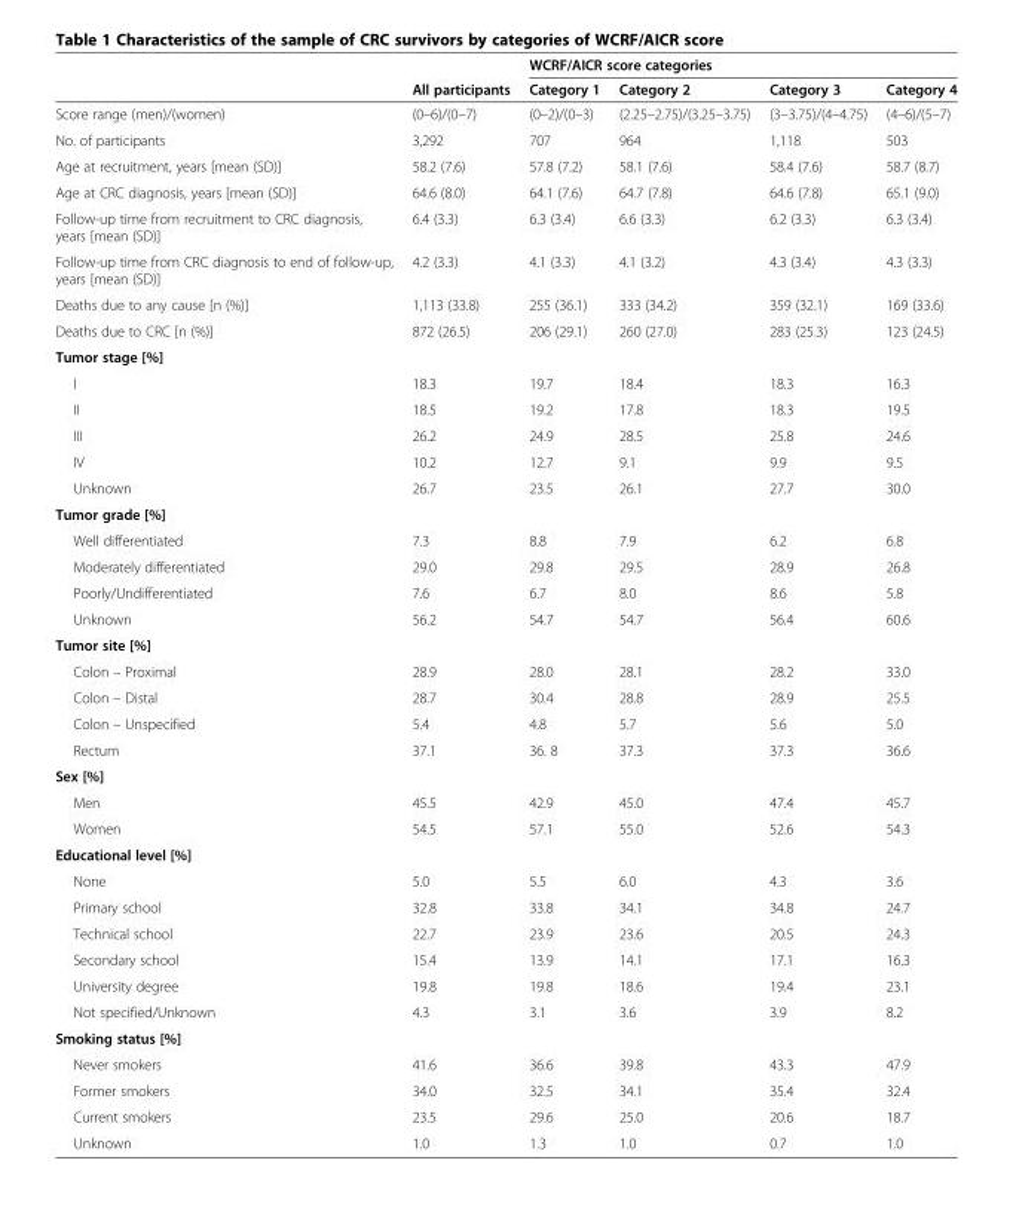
<table><thead><tr><td rowspan="2"></td><td rowspan="2">All participants</td><td colspan="4">WCRF/AICR score categories</td></tr><tr><td>Category 1</td><td>Category 2</td><td>Category 3</td><td>Category 4</td></tr></thead><tbody><tr><td>Score range (men)/(women)</td><td>(0–6)/(0–7)</td><td>(0–2)/(0–3)</td><td>(2.25–2.75)/(3.25–3.75)</td><td>(3–3.75)/(4–4.75)</td><td>(4–6)/(5–7)</td></tr><tr><td>No. of participants</td><td>3,292</td><td>707</td><td>964</td><td>1,118</td><td>503</td></tr><tr><td>Age at recruitment, years [mean (SD)]</td><td>58.2 (7.6)</td><td>57.8 (7.2)</td><td>58.1 (7.6)</td><td>58.4 (7.6)</td><td>58.7 (8.7)</td></tr><tr><td>Age at CRC diagnosis, years [mean (SD)]</td><td>64.6 (8.0)</td><td>64.1 (7.6)</td><td>64.7 (7.8)</td><td>64.6 (7.8)</td><td>65.1 (9.0)</td></tr><tr><td>Follow-up time from recruitment to CRC diagnosis, years [mean (SD)]</td><td>6.4 (3.3)</td><td>6.3 (3.4)</td><td>6.6 (3.3)</td><td>6.2 (3.3)</td><td>6.3 (3.4)</td></tr><tr><td>Follow-up time from CRC diagnosis to end of follow-up, years [mean (SD)]</td><td>4.2 (3.3)</td><td>4.1 (3.3)</td><td>4.1 (3.2)</td><td>4.3 (3.4)</td><td>4.3 (3.3)</td></tr><tr><td>Deaths due to any cause [n (%)]</td><td>1,113 (33.8)</td><td>255 (36.1)</td><td>333 (34.2)</td><td>359 (32.1)</td><td>169 (33.6)</td></tr><tr><td>Deaths due to CRC [n (%)]</td><td>872 (26.5)</td><td>206 (29.1)</td><td>260 (27.0)</td><td>283 (25.3)</td><td>123 (24.5)</td></tr><tr><td colspan="6">Tumor stage [%]</td></tr><tr><td>I</td><td>18.3</td><td>19.7</td><td>18.4</td><td>18.3</td><td>16.3</td></tr><tr><td>II</td><td>18.5</td><td>19.2</td><td>17.8</td><td>18.3</td><td>19.5</td></tr><tr><td>III</td><td>26.2</td><td>24.9</td><td>28.5</td><td>25.8</td><td>24.6</td></tr><tr><td>IV</td><td>10.2</td><td>12.7</td><td>9.1</td><td>9.9</td><td>9.5</td></tr><tr><td>Unknown</td><td>26.7</td><td>23.5</td><td>26.1</td><td>27.7</td><td>30.0</td></tr><tr><td colspan="6">Tumor grade [%]</td></tr><tr><td>Well differentiated</td><td>7.3</td><td>8.8</td><td>7.9</td><td>6.2</td><td>6.8</td></tr><tr><td>Moderately differentiated</td><td>29.0</td><td>29.8</td><td>29.5</td><td>28.9</td><td>26.8</td></tr><tr><td>Poorly/Undifferentiated</td><td>7.6</td><td>6.7</td><td>8.0</td><td>8.6</td><td>5.8</td></tr><tr><td>Unknown</td><td>56.2</td><td>54.7</td><td>54.7</td><td>56.4</td><td>60.6</td></tr><tr><td colspan="6">Tumor site [%]</td></tr><tr><td>Colon – Proximal</td><td>28.9</td><td>28.0</td><td>28.1</td><td>28.2</td><td>33.0</td></tr><tr><td>Colon – Distal</td><td>28.7</td><td>30.4</td><td>28.8</td><td>28.9</td><td>25.5</td></tr><tr><td>Colon – Unspecified</td><td>5.4</td><td>4.8</td><td>5.7</td><td>5.6</td><td>5.0</td></tr><tr><td>Rectum</td><td>37.1</td><td>36. 8</td><td>37.3</td><td>37.3</td><td>36.6</td></tr><tr><td colspan="6">Sex [%]</td></tr><tr><td>Men</td><td>45.5</td><td>42.9</td><td>45.0</td><td>47.4</td><td>45.7</td></tr><tr><td>Women</td><td>54.5</td><td>57.1</td><td>55.0</td><td>52.6</td><td>54.3</td></tr><tr><td colspan="6">Educational level [%]</td></tr><tr><td>None</td><td>5.0</td><td>5.5</td><td>6.0</td><td>4.3</td><td>3.6</td></tr><tr><td>Primary school</td><td>32.8</td><td>33.8</td><td>34.1</td><td>34.8</td><td>24.7</td></tr><tr><td>Technical school</td><td>22.7</td><td>23.9</td><td>23.6</td><td>20.5</td><td>24.3</td></tr><tr><td>Secondary school</td><td>15.4</td><td>13.9</td><td>14.1</td><td>17.1</td><td>16.3</td></tr><tr><td>University degree</td><td>19.8</td><td>19.8</td><td>18.6</td><td>19.4</td><td>23.1</td></tr><tr><td>Not specified/Unknown</td><td>4.3</td><td>3.1</td><td>3.6</td><td>3.9</td><td>8.2</td></tr><tr><td colspan="6">Smoking status [%]</td></tr><tr><td>Never smokers</td><td>41.6</td><td>36.6</td><td>39.8</td><td>43.3</td><td>47.9</td></tr><tr><td>Former smokers</td><td>34.0</td><td>32.5</td><td>34.1</td><td>35.4</td><td>32.4</td></tr><tr><td>Current smokers</td><td>23.5</td><td>29.6</td><td>25.0</td><td>20.6</td><td>18.7</td></tr><tr><td>Unknown</td><td>1.0</td><td>1.3</td><td>1.0</td><td>0.7</td><td>1.0</td></tr></tbody></table>